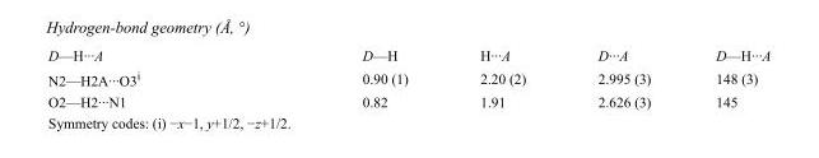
<table><tbody><tr><td>D—H···A</td><td>D—H</td><td>H···A</td><td>D···A</td><td>D—H···A</td></tr><tr><td>N2—H2A···O3<sup>i</sup></td><td>0.90 (1)</td><td>2.20 (2)</td><td>2.995 (3)</td><td>148 (3)</td></tr><tr><td>O2—H2···N1</td><td>0.82</td><td>1.91</td><td>2.626 (3)</td><td>145</td></tr></tbody></table>